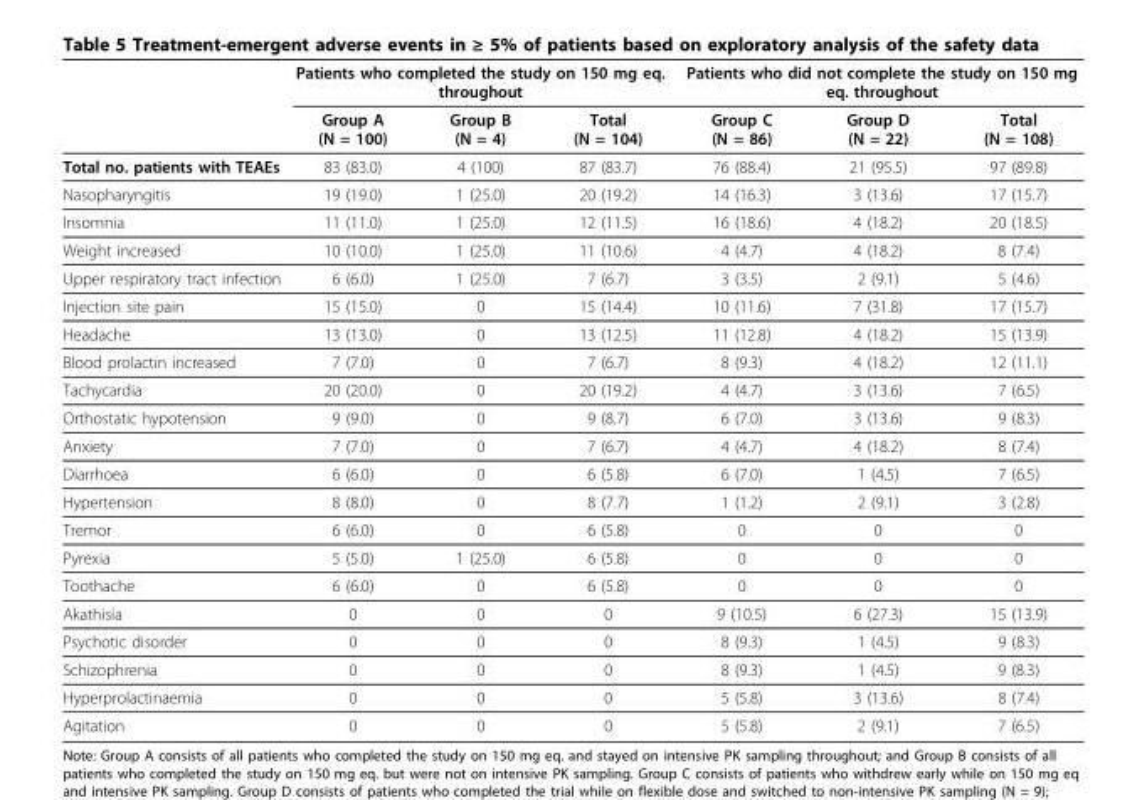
<table><thead><tr><td rowspan="2"></td><td colspan="3">Patients who completed the study on 150 mg eq. throughout</td><td colspan="3">Patients who did not complete the study on 150 mg eq. throughout</td></tr><tr><td>Group A (N = 100)</td><td>Group B (N = 4)</td><td>Total (N = 104)</td><td>Group C (N = 86)</td><td>Group D (N = 22)</td><td>Total (N = 108)</td></tr></thead><tbody><tr><td>Total no. patients with TEAEs</td><td>83 (83.0)</td><td>4 (100)</td><td>87 (83.7)</td><td>76 (88.4)</td><td>21 (95.5)</td><td>97 (89.8)</td></tr><tr><td>Nasopharyngitis</td><td>19 (19.0)</td><td>1 (25.0)</td><td>20 (19.2)</td><td>14 (16.3)</td><td>3 (13.6)</td><td>17 (15.7)</td></tr><tr><td>Insomnia</td><td>11 (11.0)</td><td>1 (25.0)</td><td>12 (11.5)</td><td>16 (18.6)</td><td>4 (18.2)</td><td>20 (18.5)</td></tr><tr><td>Weight increased</td><td>10 (10.0)</td><td>1 (25.0)</td><td>11 (10.6)</td><td>4 (4.7)</td><td>4 (18.2)</td><td>8 (7.4)</td></tr><tr><td>Upper respiratory tract infection</td><td>6 (6.0)</td><td>1 (25.0)</td><td>7 (6.7)</td><td>3 (3.5)</td><td>2 (9.1)</td><td>5 (4.6)</td></tr><tr><td>Injection site pain</td><td>15 (15.0)</td><td>0</td><td>15 (14.4)</td><td>10 (11.6)</td><td>7 (31.8)</td><td>17 (15.7)</td></tr><tr><td>Headache</td><td>13 (13.0)</td><td>0</td><td>13 (12.5)</td><td>11 (12.8)</td><td>4 (18.2)</td><td>15 (13.9)</td></tr><tr><td>Blood prolactin increased</td><td>7 (7.0)</td><td>0</td><td>7 (6.7)</td><td>8 (9.3)</td><td>4 (18.2)</td><td>12 (11.1)</td></tr><tr><td>Tachycardia</td><td>20 (20.0)</td><td>0</td><td>20 (19.2)</td><td>4 (4.7)</td><td>3 (13.6)</td><td>7 (6.5)</td></tr><tr><td>Orthostatic hypotension</td><td>9 (9.0)</td><td>0</td><td>9 (8.7)</td><td>6 (7.0)</td><td>3 (13.6)</td><td>9 (8.3)</td></tr><tr><td>Anxiety</td><td>7 (7.0)</td><td>0</td><td>7 (6.7)</td><td>4 (4.7)</td><td>4 (18.2)</td><td>8 (7.4)</td></tr><tr><td>Diarrhoea</td><td>6 (6.0)</td><td>0</td><td>6 (5.8)</td><td>6 (7.0)</td><td>1 (4.5)</td><td>7 (6.5)</td></tr><tr><td>Hypertension</td><td>8 (8.0)</td><td>0</td><td>8 (7.7)</td><td>1 (1.2)</td><td>2 (9.1)</td><td>3 (2.8)</td></tr><tr><td>Tremor</td><td>6 (6.0)</td><td>0</td><td>6 (5.8)</td><td>0</td><td>0</td><td>0</td></tr><tr><td>Pyrexia</td><td>5 (5.0)</td><td>1 (25.0)</td><td>6 (5.8)</td><td>0</td><td>0</td><td>0</td></tr><tr><td>Toothache</td><td>6 (6.0)</td><td>0</td><td>6 (5.8)</td><td>0</td><td>0</td><td>0</td></tr><tr><td>Akathisia</td><td>0</td><td>0</td><td>0</td><td>9 (10.5)</td><td>6 (27.3)</td><td>15 (13.9)</td></tr><tr><td>Psychotic disorder</td><td>0</td><td>0</td><td>0</td><td>8 (9.3)</td><td>1 (4.5)</td><td>9 (8.3)</td></tr><tr><td>Schizophrenia</td><td>0</td><td>0</td><td>0</td><td>8 (9.3)</td><td>1 (4.5)</td><td>9 (8.3)</td></tr><tr><td>Hyperprolactinaemia</td><td>0</td><td>0</td><td>0</td><td>5 (5.8)</td><td>3 (13.6)</td><td>8 (7.4)</td></tr><tr><td>Agitation</td><td>0</td><td>0</td><td>0</td><td>5 (5.8)</td><td>2 (9.1)</td><td>7 (6.5)</td></tr></tbody></table>